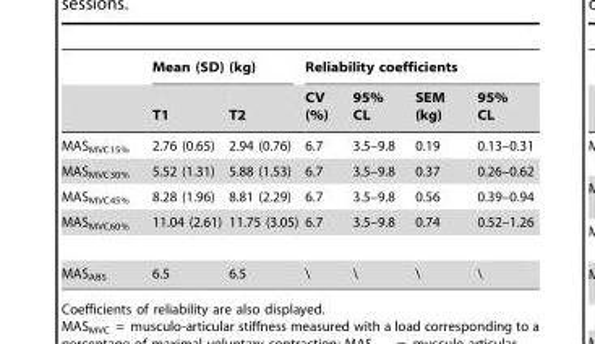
<table><thead><tr><td rowspan="2"></td><td colspan="2">Mean (SD) (kg)</td><td colspan="4">Reliability coefficients</td></tr><tr><td>T1</td><td>T2</td><td>CV (%)</td><td>95% CL</td><td>SEM (kg)</td><td>95% CL</td></tr></thead><tbody><tr><td>MAS<sub>MVC15%</sub></td><td>2.76 (0.65)</td><td>2.94 (0.76)</td><td>6.7</td><td>3.5–9.8</td><td>0.19</td><td>0.13–0.31</td></tr><tr><td>MAS<sub>MVC30%</sub></td><td>5.52 (1.31)</td><td>5.88 (1.53)</td><td>6.7</td><td>3.5–9.8</td><td>0.37</td><td>0.26–0.62</td></tr><tr><td>MAS<sub>MVC45%</sub></td><td>8.28 (1.96)</td><td>8.81 (2.29)</td><td>6.7</td><td>3.5–9.8</td><td>0.56</td><td>0.39–0.94</td></tr><tr><td>MAS<sub>MVC60%</sub></td><td>11.04 (2.61)</td><td>11.75 (3.05)</td><td>6.7</td><td>3.5–9.8</td><td>0.74</td><td>0.52–1.26</td></tr><tr><td>MAS<sub>ABS</sub></td><td>6.5</td><td>6.5</td><td>\</td><td>\</td><td>\</td><td>\</td></tr></tbody></table>